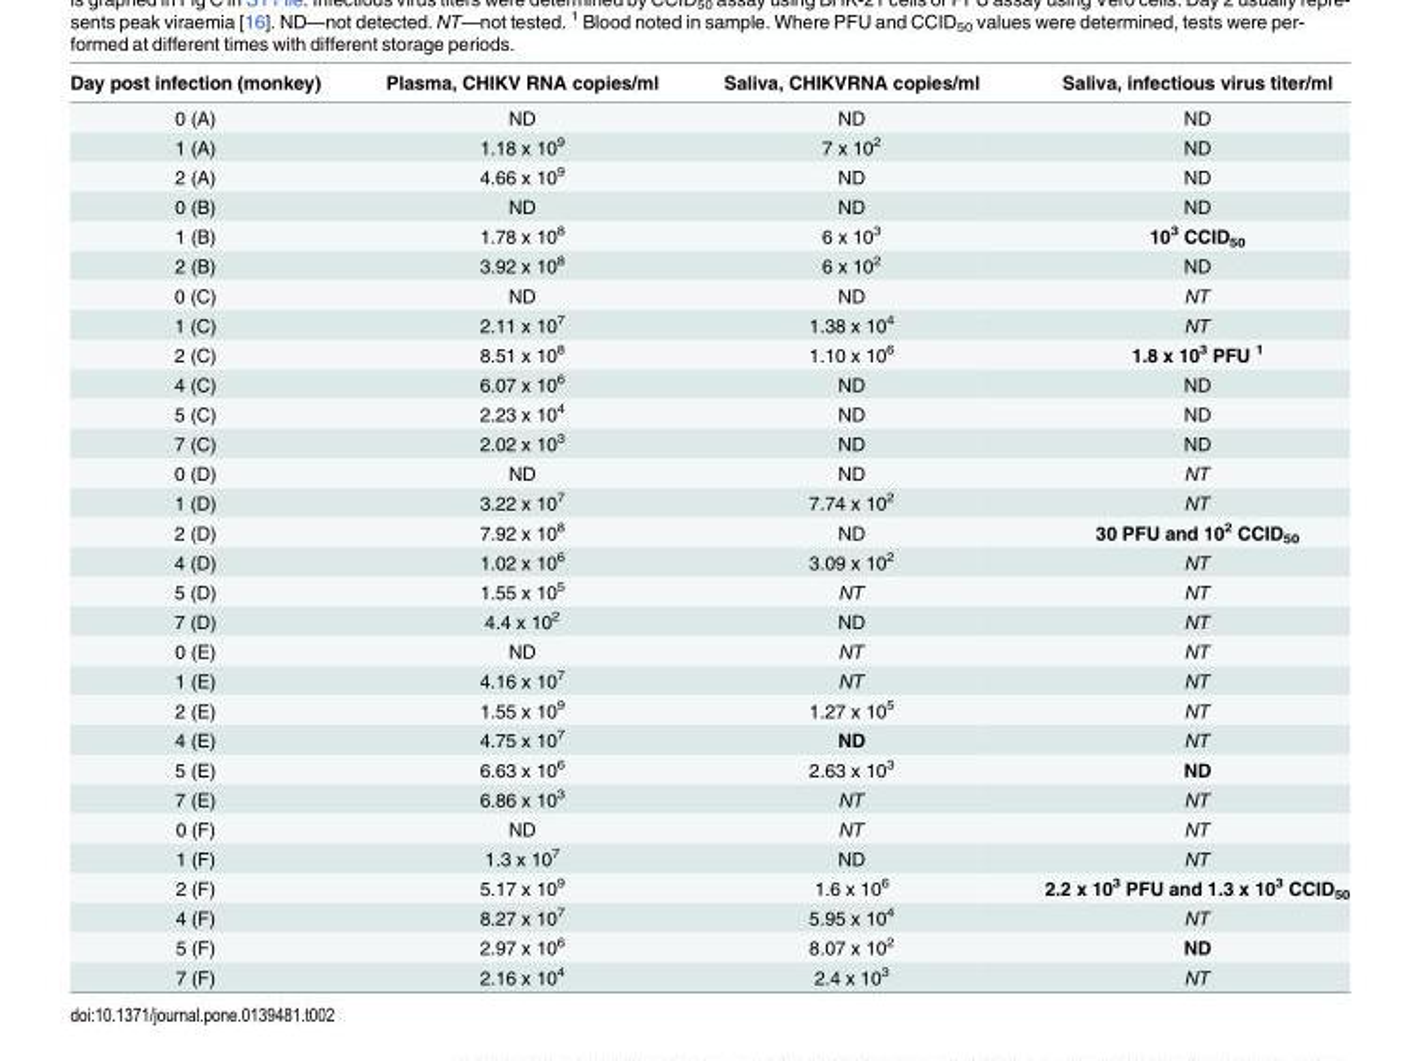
<table><thead><tr><td>Day post infection (monkey)</td><td>Plasma, CHIKV RNA copies/ml</td><td>Saliva, CHIKVRNA copies/ml</td><td>Saliva, infectious virus titer/ml</td></tr></thead><tbody><tr><td>0 (A)</td><td>ND</td><td>ND</td><td>ND</td></tr><tr><td>1 (A)</td><td>1.18 x 10<sup>9</sup></td><td>7 x 10<sup>2</sup></td><td>ND</td></tr><tr><td>2 (A)</td><td>4.66 x 10<sup>9</sup></td><td>ND</td><td>ND</td></tr><tr><td>0 (B)</td><td>ND</td><td>ND</td><td>ND</td></tr><tr><td>1 (B)</td><td>1.78 x 10<sup>8</sup></td><td>6 x 10<sup>3</sup></td><td>10<sup>3</sup> CCID<sub>50</sub></td></tr><tr><td>2 (B)</td><td>3.92 x 10<sup>8</sup></td><td>6 x 10<sup>2</sup></td><td>ND</td></tr><tr><td>0 (C)</td><td>ND</td><td>ND</td><td>NT</td></tr><tr><td>1 (C)</td><td>2.11 x 10<sup>7</sup></td><td>1.38 x 10<sup>4</sup></td><td>NT</td></tr><tr><td>2 (C)</td><td>8.51 x 10<sup>8</sup></td><td>1.10 x 10<sup>6</sup></td><td>1.8 x 10<sup>3</sup> PFU <sup>1</sup></td></tr><tr><td>4 (C)</td><td>6.07 x 10<sup>6</sup></td><td>ND</td><td>ND</td></tr><tr><td>5 (C)</td><td>2.23 x 10<sup>4</sup></td><td>ND</td><td>ND</td></tr><tr><td>7 (C)</td><td>2.02 x 10<sup>3</sup></td><td>ND</td><td>ND</td></tr><tr><td>0 (D)</td><td>ND</td><td>ND</td><td>NT</td></tr><tr><td>1 (D)</td><td>3.22 x 10<sup>7</sup></td><td>7.74 x 10<sup>2</sup></td><td>NT</td></tr><tr><td>2 (D)</td><td>7.92 x 10<sup>8</sup></td><td>ND</td><td>30 PFU and 10<sup>2</sup> CCID<sub>50</sub></td></tr><tr><td>4 (D)</td><td>1.02 x 10<sup>6</sup></td><td>3.09 x 10<sup>2</sup></td><td>NT</td></tr><tr><td>5 (D)</td><td>1.55 x 10<sup>5</sup></td><td>NT</td><td>NT</td></tr><tr><td>7 (D)</td><td>4.4 x 10<sup>2</sup></td><td>ND</td><td>NT</td></tr><tr><td>0 (E)</td><td>ND</td><td>NT</td><td>NT</td></tr><tr><td>1 (E)</td><td>4.16 x 10<sup>7</sup></td><td>NT</td><td>NT</td></tr><tr><td>2 (E)</td><td>1.55 x 10<sup>9</sup></td><td>1.27 x 10<sup>5</sup></td><td>NT</td></tr><tr><td>4 (E)</td><td>4.75 x 10<sup>7</sup></td><td>ND</td><td>NT</td></tr><tr><td>5 (E)</td><td>6.63 x 10<sup>6</sup></td><td>2.63 x 10<sup>3</sup></td><td>ND</td></tr><tr><td>7 (E)</td><td>6.86 x 10<sup>3</sup></td><td>NT</td><td>NT</td></tr><tr><td>0 (F)</td><td>ND</td><td>NT</td><td>NT</td></tr><tr><td>1 (F)</td><td>1.3 x 10<sup>7</sup></td><td>ND</td><td>NT</td></tr><tr><td>2 (F)</td><td>5.17 x 10<sup>9</sup></td><td>1.6 x 10<sup>6</sup></td><td>2.2 x 10<sup>3</sup> PFU and 1.3 x 10<sup>3</sup> CCID<sub>50</sub></td></tr><tr><td>4 (F)</td><td>8.27 x 10<sup>7</sup></td><td>5.95 x 10<sup>4</sup></td><td>NT</td></tr><tr><td>5 (F)</td><td>2.97 x 10<sup>6</sup></td><td>8.07 x 10<sup>2</sup></td><td>ND</td></tr><tr><td>7 (F)</td><td>2.16 x 10<sup>4</sup></td><td>2.4 x 10<sup>3</sup></td><td>NT</td></tr></tbody></table>